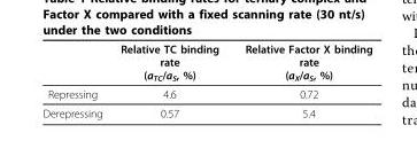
<table><thead><tr><td></td><td>Relative TC binding rate (a<sub>TC</sub>/a<sub>S</sub>, %)</td><td>Relative Factor X binding rate (a<sub>X</sub>/a<sub>S</sub>, %)</td></tr></thead><tbody><tr><td>Repressing</td><td>4.6</td><td>0.72</td></tr><tr><td>Derepressing</td><td>0.57</td><td>5.4</td></tr></tbody></table>